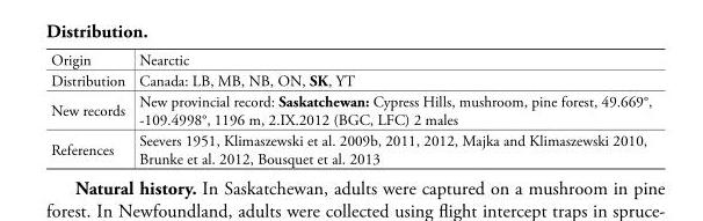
<table><tbody><tr><td>Origin</td><td>Nearctic</td></tr><tr><td>Distribution</td><td>Canada: LB, MB, NB, ON, SK, YT</td></tr><tr><td>New records</td><td>New provincial record: Saskatchewan: Cypress Hills, mushroom, pine forest, 49.669°, -109.4998°, 1196 m, 2.IX.2012 (BGC, LFC) 2 males</td></tr><tr><td>References</td><td>Seevers 1951, Klimaszewski et al. 2009b, 2011, 2012, Majka and Klimaszewski 2010, Brunke et al. 2012, Bousquet et al. 2013</td></tr></tbody></table>